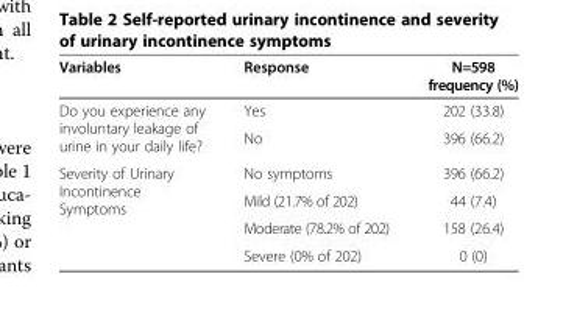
<table><thead><tr><td>Variables</td><td>Response</td><td>N=598 frequency (%)</td></tr></thead><tbody><tr><td rowspan="2">Do you experience any involuntary leakage of urine in your daily life?</td><td>Yes</td><td>202 (33.8)</td></tr><tr><td>No</td><td>396 (66.2)</td></tr><tr><td rowspan="4">Severity of Urinary Incontinence Symptoms</td><td>No symptoms</td><td>396 (66.2)</td></tr><tr><td>Mild (21.7% of 202)</td><td>44 (7.4)</td></tr><tr><td>Moderate (78.2% of 202)</td><td>158 (26.4)</td></tr><tr><td>Severe (0% of 202)</td><td>0 (0)</td></tr></tbody></table>